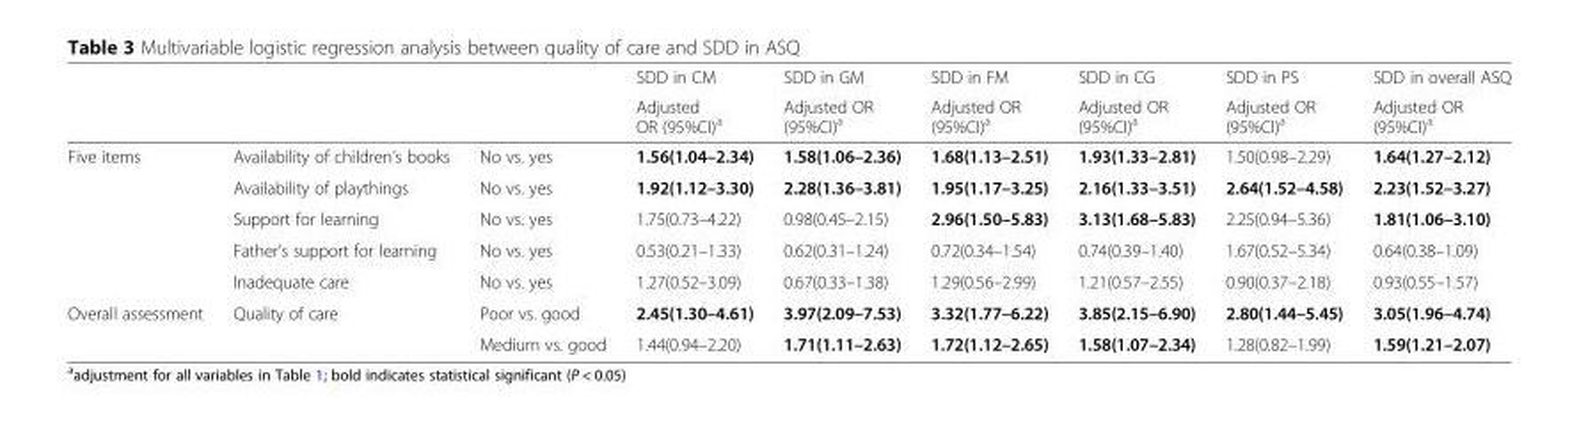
<table><thead><tr><td rowspan="2"></td><td rowspan="2"></td><td rowspan="2"></td><td rowspan="2">SDD in CM Adjusted OR (95%CI)<sup>a</sup></td><td rowspan="2">SDD in GM Adjusted OR (95%CI)<sup>a</sup></td><td rowspan="2">SDD in FM Adjusted OR (95%CI)<sup>a</sup></td><td rowspan="2">SDD in CG Adjusted OR (95%CI)<sup>a</sup></td><td rowspan="2">SDD in PS Adjusted OR (95%CI)<sup>a</sup></td><td rowspan="2">SDD in overall ASQ Adjusted OR (95%CI)<sup>a</sup></td></tr><tr></tr></thead><tbody><tr><td rowspan="5">Five items</td><td>Availability of children’s books</td><td>No vs. yes</td><td>1.56(1.04–2.34)</td><td>1.58(1.06–2.36)</td><td>1.68(1.13–2.51)</td><td>1.93(1.33–2.81)</td><td>1.50(0.98–2.29)</td><td>1.64(1.27–2.12)</td></tr><tr><td>Availability of playthings</td><td>No vs. yes</td><td>1.92(1.12–3.30)</td><td>2.28(1.36–3.81)</td><td>1.95(1.17–3.25)</td><td>2.16(1.33–3.51)</td><td>2.64(1.52–4.58)</td><td>2.23(1.52–3.27)</td></tr><tr><td>Support for learning</td><td>No vs. yes</td><td>1.75(0.73–4.22)</td><td>0.98(0.45–2.15)</td><td>2.96(1.50–5.83)</td><td>3.13(1.68–5.83)</td><td>2.25(0.94–5.36)</td><td>1.81(1.06–3.10)</td></tr><tr><td>Father’s support for learning</td><td>No vs. yes</td><td>0.53(0.21–1.33)</td><td>0.62(0.31–1.24)</td><td>0.72(0.34–1.54)</td><td>0.74(0.39–1.40)</td><td>1.67(0.52–5.34)</td><td>0.64(0.38–1.09)</td></tr><tr><td>Inadequate care</td><td>No vs. yes</td><td>1.27(0.52–3.09)</td><td>0.67(0.33–1.38)</td><td>1.29(0.56–2.99)</td><td>1.21(0.57–2.55)</td><td>0.90(0.37–2.18)</td><td>0.93(0.55–1.57)</td></tr><tr><td rowspan="2">Overall assessment</td><td>Quality of care</td><td>Poor vs. good</td><td>2.45(1.30–4.61)</td><td>3.97(2.09–7.53)</td><td>3.32(1.77–6.22)</td><td>3.85(2.15–6.90)</td><td>2.80(1.44–5.45)</td><td>3.05(1.96–4.74)</td></tr><tr><td></td><td>Medium vs. good</td><td>1.44(0.94–2.20)</td><td>1.71(1.11–2.63)</td><td>1.72(1.12–2.65)</td><td>1.58(1.07–2.34)</td><td>1.28(0.82–1.99)</td><td>1.59(1.21–2.07)</td></tr></tbody></table>